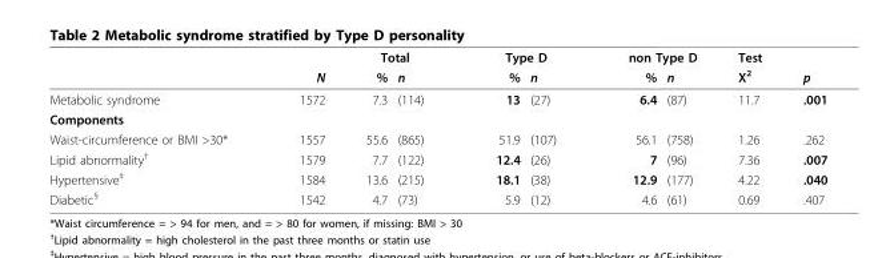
<table><thead><tr><td rowspan="2"></td><td rowspan="2">N</td><td colspan="2">Total</td><td colspan="2">Type D</td><td colspan="2">non Type D</td><td rowspan="2">Test X<sup>2</sup></td><td rowspan="2">p</td></tr><tr><td>%</td><td>n</td><td>%</td><td>n</td><td>%</td><td>n</td></tr></thead><tbody><tr><td>Metabolic syndrome</td><td>1572</td><td>7.3</td><td>(114)</td><td>13</td><td>(27)</td><td>6.4</td><td>(87)</td><td>11.7</td><td>.001</td></tr><tr><td colspan="10">Components</td></tr><tr><td>Waist-circumference or BMI &gt;30*</td><td>1557</td><td>55.6</td><td>(865)</td><td>51.9</td><td>(107)</td><td>56.1</td><td>(758)</td><td>1.26</td><td>.262</td></tr><tr><td>Lipid abnormality<sup>†</sup></td><td>1579</td><td>7.7</td><td>(122)</td><td>12.4</td><td>(26)</td><td>7</td><td>(96)</td><td>7.36</td><td>.007</td></tr><tr><td>Hypertensive<sup>‡</sup></td><td>1584</td><td>13.6</td><td>(215)</td><td>18.1</td><td>(38)</td><td>12.9</td><td>(177)</td><td>4.22</td><td>.040</td></tr><tr><td>Diabetic<sup>§</sup></td><td>1542</td><td>4.7</td><td>(73)</td><td>5.9</td><td>(12)</td><td>4.6</td><td>(61)</td><td>0.69</td><td>.407</td></tr></tbody></table>